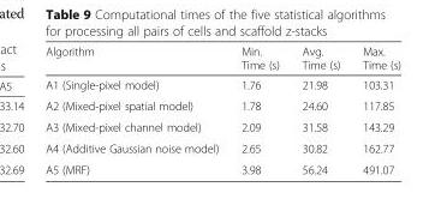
<table><thead><tr><td>Algorithm</td><td>Min. Time (s)</td><td>Avg. Time (s)</td><td>Max. Time (s)</td></tr></thead><tbody><tr><td>A1 (Single-pixel model)</td><td>1.76</td><td>21.98</td><td>103.31</td></tr><tr><td>A2 (Mixed-pixel spatial model)</td><td>1.78</td><td>24.60</td><td>117.85</td></tr><tr><td>A3 (Mixed-pixel channel model)</td><td>2.09</td><td>31.58</td><td>143.29</td></tr><tr><td>A4 (Additive Gaussian noise model)</td><td>2.65</td><td>30.82</td><td>162.77</td></tr><tr><td>A5 (MRF)</td><td>3.98</td><td>56.24</td><td>491.07</td></tr></tbody></table>